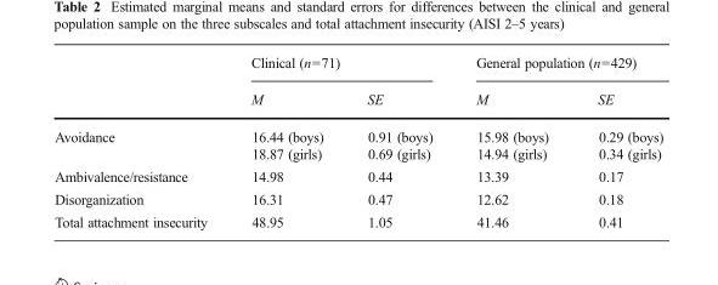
<table><thead><tr><td rowspan="2"></td><td colspan="2">Clinical (n=71)</td><td colspan="2">General population (n=429)</td></tr><tr><td>M</td><td>SE</td><td>M</td><td>SE</td></tr></thead><tbody><tr><td>Avoidance</td><td>16.44 (boys) 18.87 (girls)</td><td>0.91 (boys) 0.69 (girls)</td><td>15.98 (boys) 14.94 (girls)</td><td>0.29 (boys) 0.34 (girls)</td></tr><tr><td>Ambivalence/resistance</td><td>14.98</td><td>0.44</td><td>13.39</td><td>0.17</td></tr><tr><td>Disorganization</td><td>16.31</td><td>0.47</td><td>12.62</td><td>0.18</td></tr><tr><td>Total attachment insecurity</td><td>48.95</td><td>1.05</td><td>41.46</td><td>0.41</td></tr></tbody></table>